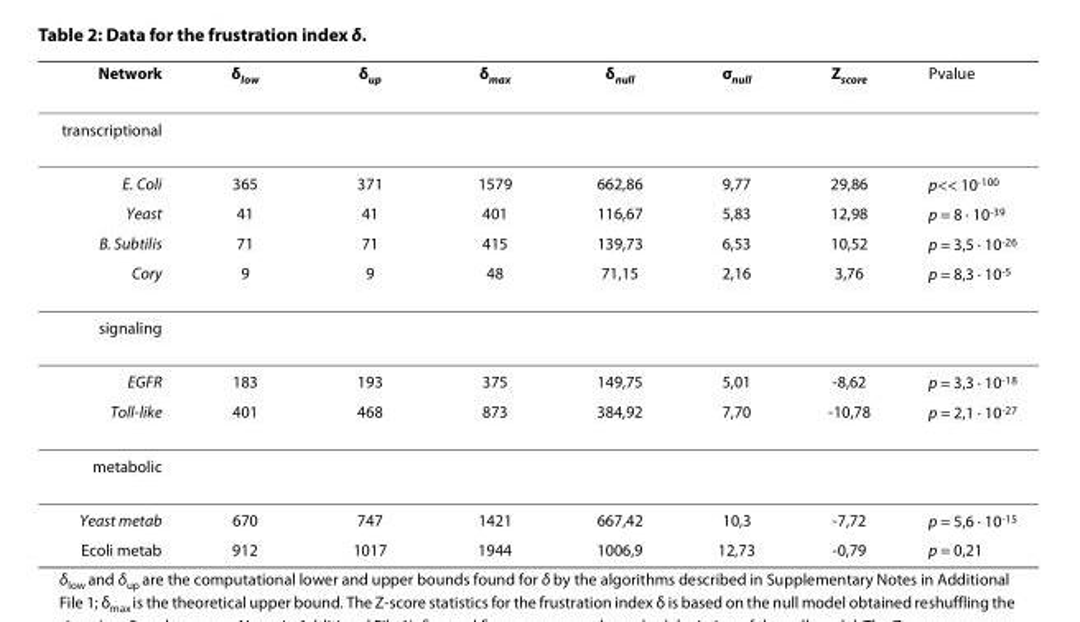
<table><thead><tr><td>Network</td><td>δ<sub>low</sub></td><td>δ<sub>up</sub></td><td>δ<sub>max</sub></td><td>δ<sub>null</sub></td><td>σ<sub>null</sub></td><td>Z<sub>score</sub></td><td>Pvalue</td></tr></thead><tbody><tr><td colspan="8">transcriptional</td></tr><tr><td>E. Coli</td><td>365</td><td>371</td><td>1579</td><td>662,86</td><td>9,77</td><td>29,86</td><td>p&lt;&lt; 10-100</td></tr><tr><td>Yeast</td><td>41</td><td>41</td><td>401</td><td>116,67</td><td>5,83</td><td>12,98</td><td>p = 8 · 10<sup>-39</sup></td></tr><tr><td>B. Subtilis</td><td>71</td><td>71</td><td>415</td><td>139,73</td><td>6,53</td><td>10,52</td><td>p = 3,5 · 10<sup>-26</sup></td></tr><tr><td>Cory</td><td>9</td><td>9</td><td>48</td><td>71,15</td><td>2,16</td><td>3,76</td><td>p = 8,3 · 10<sup>-5</sup></td></tr><tr><td colspan="8">signaling</td></tr><tr><td>EGFR</td><td>183</td><td>193</td><td>375</td><td>149,75</td><td>5,01</td><td>-8,62</td><td>p = 3,3 · 10<sup>-18</sup></td></tr><tr><td>Toll-like</td><td>401</td><td>468</td><td>873</td><td>384,92</td><td>7,70</td><td>-10,78</td><td>p = 2,1 · 10<sup>-27</sup></td></tr><tr><td colspan="8">metabolic</td></tr><tr><td>Yeast metab</td><td>670</td><td>747</td><td>1421</td><td>667,42</td><td>10,3</td><td>-7,72</td><td>p = 5,6 · 10<sup>-15</sup></td></tr><tr><td>Ecoli metab</td><td>912</td><td>1017</td><td>1944</td><td>1006,9</td><td>12,73</td><td>-0,79</td><td>p = 0,21</td></tr></tbody></table>